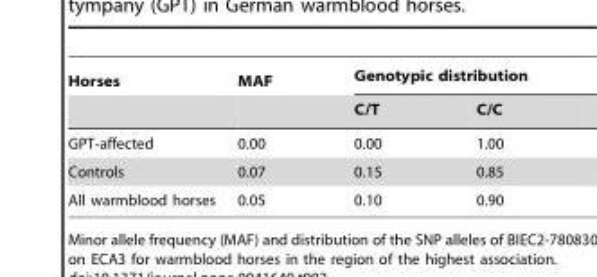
<table><thead><tr><td rowspan="2">Horses</td><td rowspan="2">MAF</td><td colspan="2">Genotypic distribution</td></tr><tr><td>C/T</td><td>C/C</td></tr></thead><tbody><tr><td>GPT-affected</td><td>0.00</td><td>0.00</td><td>1.00</td></tr><tr><td>Controls</td><td>0.07</td><td>0.15</td><td>0.85</td></tr><tr><td>All warmblood horses</td><td>0.05</td><td>0.10</td><td>0.90</td></tr></tbody></table>